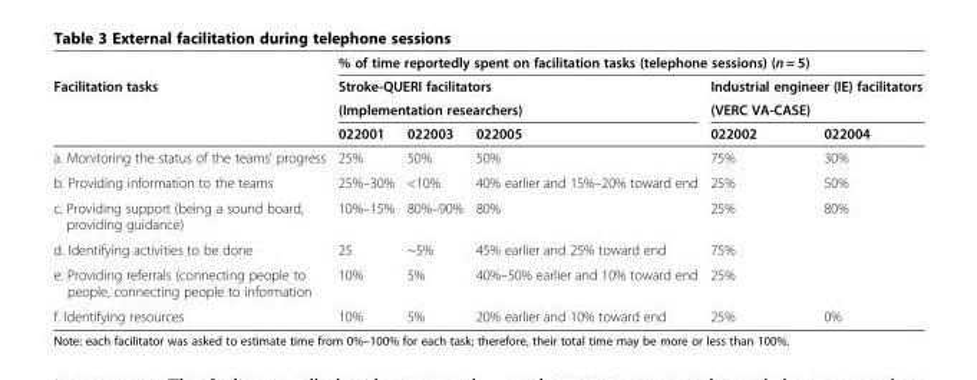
<table><thead><tr><td rowspan="4">Facilitation tasks</td><td colspan="5">% of time reportedly spent on facilitation tasks (telephone sessions) (n = 5)</td></tr><tr><td rowspan="2" colspan="3">Stroke-QUERI facilitators (Implementation researchers)</td><td rowspan="2" colspan="2">Industrial engineer (IE) facilitators (VERC VA-CASE)</td></tr><tr></tr><tr><td>022001</td><td>022003</td><td>022005</td><td>022002</td><td>022004</td></tr></thead><tbody><tr><td>a. Monitoring the status of the teams’ progress</td><td>25%</td><td>50%</td><td>50%</td><td>75%</td><td>30%</td></tr><tr><td>b. Providing information to the teams</td><td>25%–30%</td><td>&lt;10%</td><td>40% earlier and 15%–20% toward end</td><td>25%</td><td>50%</td></tr><tr><td>c. Providing support (being a sound board, providing guidance)</td><td>10%–15%</td><td>80%–90%</td><td>80%</td><td>25%</td><td>80%</td></tr><tr><td>d. Identifying activities to be done</td><td>25</td><td>~5%</td><td>45% earlier and 25% toward end</td><td>75%</td><td></td></tr><tr><td>e. Providing referrals (connecting people to people, connecting people to information</td><td>10%</td><td>5%</td><td>40%–50% earlier and 10% toward end</td><td>25%</td><td></td></tr><tr><td>f. Identifying resources</td><td>10%</td><td>5%</td><td>20% earlier and 10% toward end</td><td>25%</td><td>0%</td></tr></tbody></table>